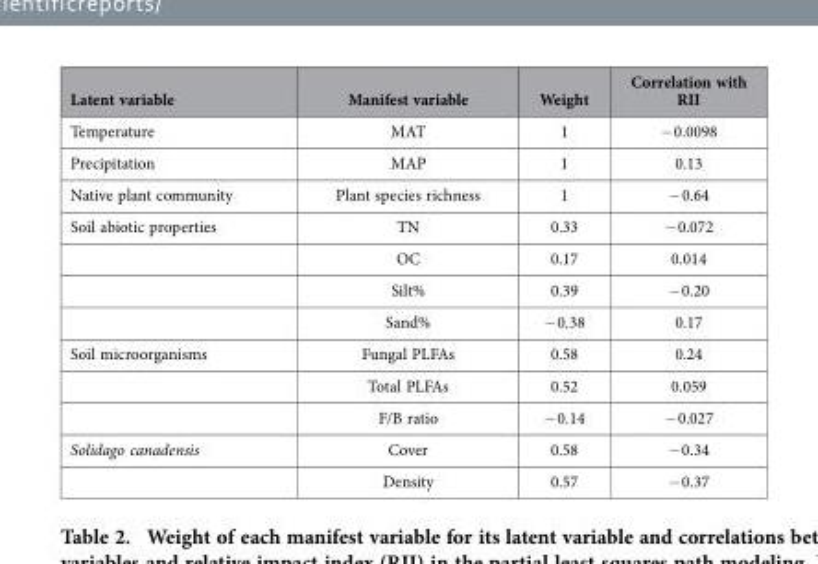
<table><thead><tr><td>Latent variable</td><td>Manifest variable</td><td>Weight</td><td>Correlation with RII</td></tr></thead><tbody><tr><td>Temperature</td><td>MAT</td><td>1</td><td>− 0.0098</td></tr><tr><td>Precipitation</td><td>MAP</td><td>1</td><td>0.13</td></tr><tr><td>Native plant community</td><td>Plant species richness</td><td>1</td><td>− 0.64</td></tr><tr><td rowspan="4">Soil abiotic properties</td><td>TN</td><td>0.33</td><td>− 0.072</td></tr><tr><td>OC</td><td>0.17</td><td>0.014</td></tr><tr><td>Silt%</td><td>0.39</td><td>− 0.20</td></tr><tr><td>Sand%</td><td>− 0.38</td><td>0.17</td></tr><tr><td rowspan="3">Soil microorganisms</td><td>Fungal PLFAs</td><td>0.58</td><td>0.24</td></tr><tr><td>Total PLFAs</td><td>0.52</td><td>0.059</td></tr><tr><td>F/B ratio</td><td>− 0.14</td><td>− 0.027</td></tr><tr><td rowspan="2">Solidago canadensis</td><td>Cover</td><td>0.58</td><td>− 0.34</td></tr><tr><td>Density</td><td>0.57</td><td>− 0.37</td></tr></tbody></table>